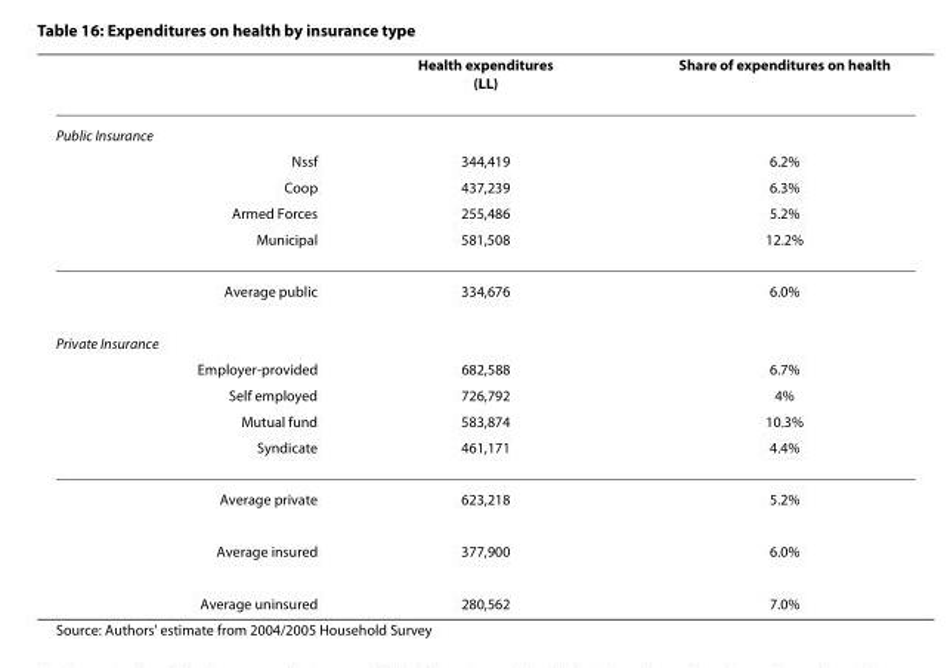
<table><thead><tr><td></td><td>Health expenditures (LL)</td><td>Share of expenditures on health</td></tr></thead><tbody><tr><td colspan="3">Public Insurance</td></tr><tr><td>Nssf</td><td>344,419</td><td>6.2%</td></tr><tr><td>Coop</td><td>437,239</td><td>6.3%</td></tr><tr><td>Armed Forces</td><td>255,486</td><td>5.2%</td></tr><tr><td>Municipal</td><td>581,508</td><td>12.2%</td></tr><tr><td>Average public</td><td>334,676</td><td>6.0%</td></tr><tr><td colspan="3">Private Insurance</td></tr><tr><td>Employer-provided</td><td>682,588</td><td>6.7%</td></tr><tr><td>Self employed</td><td>726,792</td><td>4%</td></tr><tr><td>Mutual fund</td><td>583,874</td><td>10.3%</td></tr><tr><td>Syndicate</td><td>461,171</td><td>4.4%</td></tr><tr><td>Average private</td><td>623,218</td><td>5.2%</td></tr><tr><td>Average insured</td><td>377,900</td><td>6.0%</td></tr><tr><td>Average uninsured</td><td>280,562</td><td>7.0%</td></tr></tbody></table>